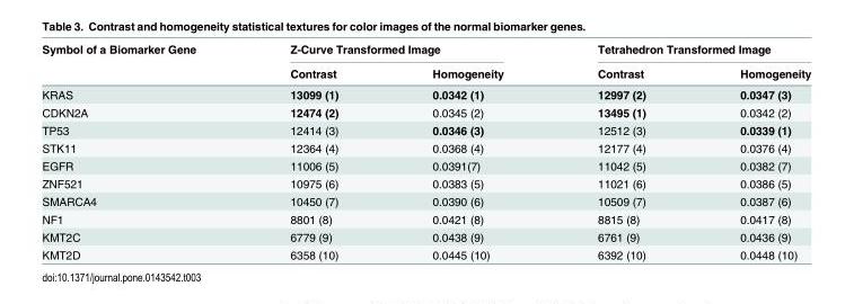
<table><thead><tr><td rowspan="2">Symbol of a Biomarker Gene</td><td colspan="2">Z-Curve Transformed Image</td><td colspan="2">Tetrahedron Transformed Image</td></tr><tr><td>Contrast</td><td>Homogeneity</td><td>Contrast</td><td>Homogeneity</td></tr></thead><tbody><tr><td>KRAS</td><td>13099 (1)</td><td>0.0342 (1)</td><td>12997 (2)</td><td>0.0347 (3)</td></tr><tr><td>CDKN2A</td><td>12474 (2)</td><td>0.0345 (2)</td><td>13495 (1)</td><td>0.0342 (2)</td></tr><tr><td>TP53</td><td>12414 (3)</td><td>0.0346 (3)</td><td>12512 (3)</td><td>0.0339 (1)</td></tr><tr><td>STK11</td><td>12364 (4)</td><td>0.0368 (4)</td><td>12177 (4)</td><td>0.0376 (4)</td></tr><tr><td>EGFR</td><td>11006 (5)</td><td>0.0391(7)</td><td>11042 (5)</td><td>0.0382 (7)</td></tr><tr><td>ZNF521</td><td>10975 (6)</td><td>0.0383 (5)</td><td>11021 (6)</td><td>0.0386 (5)</td></tr><tr><td>SMARCA4</td><td>10450 (7)</td><td>0.0390 (6)</td><td>10509 (7)</td><td>0.0387 (6)</td></tr><tr><td>NF1</td><td>8801 (8)</td><td>0.0421 (8)</td><td>8815 (8)</td><td>0.0417 (8)</td></tr><tr><td>KMT2C</td><td>6779 (9)</td><td>0.0438 (9)</td><td>6761 (9)</td><td>0.0436 (9)</td></tr><tr><td>KMT2D</td><td>6358 (10)</td><td>0.0445 (10)</td><td>6392 (10)</td><td>0.0448 (10)</td></tr></tbody></table>